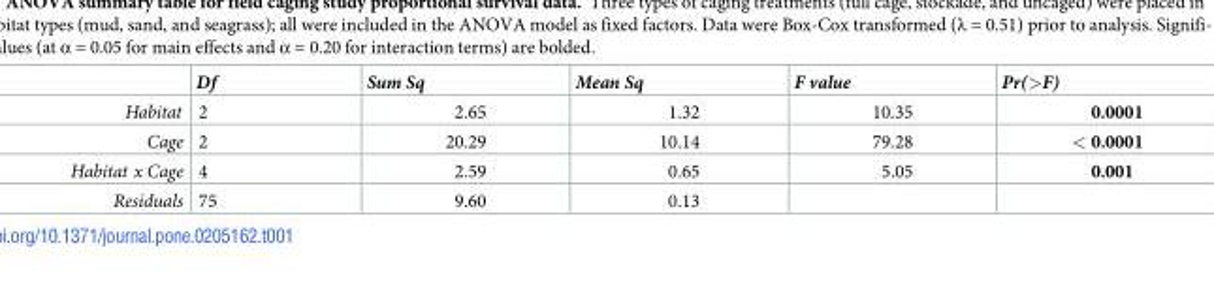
<table><thead><tr><td></td><td>Df</td><td>Sum Sq</td><td>Mean Sq</td><td>F value</td><td>Pr(&gt;F)</td></tr></thead><tbody><tr><td>Habitat</td><td>2</td><td>2.65</td><td>1.32</td><td>10.35</td><td>0.0001</td></tr><tr><td>Cage</td><td>2</td><td>20.29</td><td>10.14</td><td>79.28</td><td>&lt; 0.0001</td></tr><tr><td>Habitat x Cage</td><td>4</td><td>2.59</td><td>0.65</td><td>5.05</td><td>0.001</td></tr><tr><td>Residuals</td><td>75</td><td>9.60</td><td>0.13</td><td></td><td></td></tr></tbody></table>